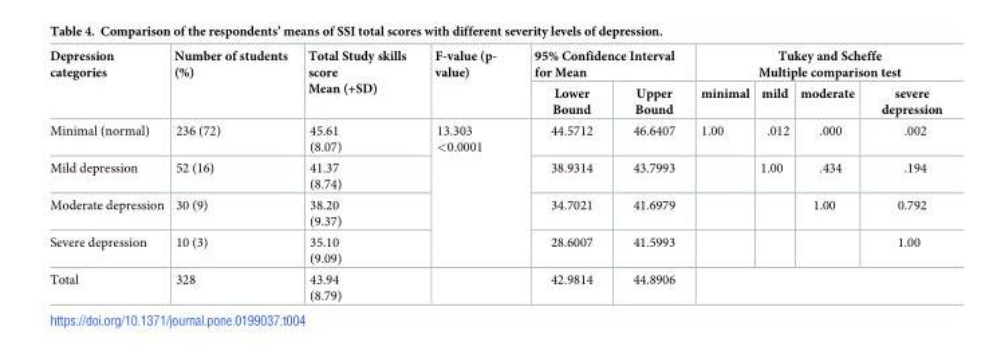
<table><thead><tr><td rowspan="2">Depression categories</td><td rowspan="2">Number of students (%)</td><td rowspan="2">Total Study skills score Mean (+SD)</td><td rowspan="2">F-value (p- value)</td><td colspan="2">95% Confidence Interval for Mean</td><td colspan="4">Tukey and Scheffe Multiple comparison test</td></tr><tr><td>Lower Bound</td><td>Upper Bound</td><td>minimal</td><td>mild</td><td>moderate</td><td>severe depression</td></tr></thead><tbody><tr><td>Minimal (normal)</td><td>236 (72)</td><td>45.61 (8.07)</td><td rowspan="4">13.303 &lt;0.0001</td><td>44.5712</td><td>46.6407</td><td>1.00</td><td>.012</td><td>.000</td><td>.002</td></tr><tr><td>Mild depression</td><td>52 (16)</td><td>41.37 (8.74)</td><td>38.9314</td><td>43.7993</td><td></td><td>1.00</td><td>.434</td><td>.194</td></tr><tr><td>Moderate depression</td><td>30 (9)</td><td>38.20 (9.37)</td><td>34.7021</td><td>41.6979</td><td></td><td></td><td>1.00</td><td>0.792</td></tr><tr><td>Severe depression</td><td>10 (3)</td><td>35.10 (9.09)</td><td>28.6007</td><td>41.5993</td><td></td><td></td><td></td><td>1.00</td></tr><tr><td>Total</td><td>328</td><td>43.94 (8.79)</td><td></td><td>42.9814</td><td>44.8906</td><td colspan="4"></td></tr></tbody></table>